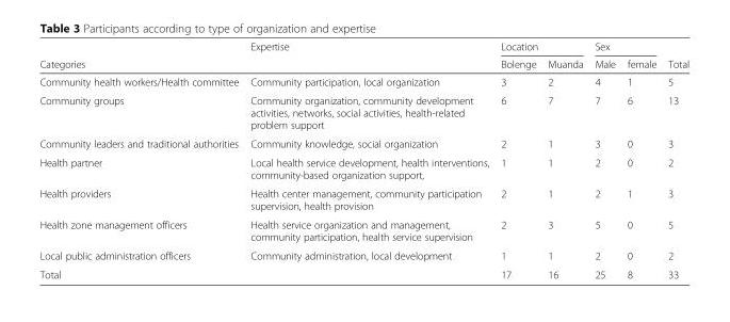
<table><thead><tr><td rowspan="2">Categories</td><td rowspan="2">Expertise</td><td colspan="2">Location</td><td colspan="2">Sex</td><td rowspan="2">Total</td></tr><tr><td>Bolenge</td><td>Muanda</td><td>Male</td><td>female</td></tr></thead><tbody><tr><td>Community health workers/Health committee</td><td>Community participation, local organization</td><td>3</td><td>2</td><td>4</td><td>1</td><td>5</td></tr><tr><td>Community groups</td><td>Community organization, community development activities, networks, social activities, health-related problem support</td><td>6</td><td>7</td><td>7</td><td>6</td><td>13</td></tr><tr><td>Community leaders and traditional authorities</td><td>Community knowledge, social organization</td><td>2</td><td>1</td><td>3</td><td>0</td><td>3</td></tr><tr><td>Health partner</td><td>Local health service development, health interventions, community-based organization support,</td><td>1</td><td>1</td><td>2</td><td>0</td><td>2</td></tr><tr><td>Health providers</td><td>Health center management, community participation supervision, health provision</td><td>2</td><td>1</td><td>2</td><td>1</td><td>3</td></tr><tr><td>Health zone management officers</td><td>Health service organization and management, community participation, health service supervision</td><td>2</td><td>3</td><td>5</td><td>0</td><td>5</td></tr><tr><td>Local public administration officers</td><td>Community administration, local development</td><td>1</td><td>1</td><td>2</td><td>0</td><td>2</td></tr><tr><td>Total</td><td></td><td>17</td><td>16</td><td>25</td><td>8</td><td>33</td></tr></tbody></table>